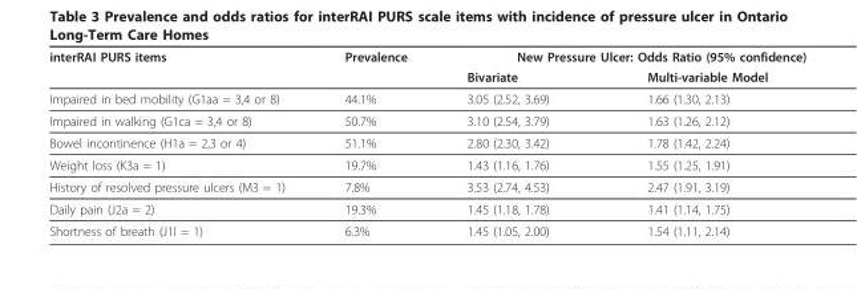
<table><thead><tr><td rowspan="2">interRAI PURS items</td><td rowspan="2">Prevalence</td><td colspan="2">New Pressure Ulcer: Odds Ratio (95% confidence)</td></tr><tr><td>Bivariate</td><td>Multi-variable Model</td></tr></thead><tbody><tr><td>Impaired in bed mobility (G1aa = 3,4 or 8)</td><td>44.1%</td><td>3.05 (2.52, 3.69)</td><td>1.66 (1.30, 2.13)</td></tr><tr><td>Impaired in walking (G1ca = 3,4 or 8)</td><td>50.7%</td><td>3.10 (2.54, 3.79)</td><td>1.63 (1.26, 2.12)</td></tr><tr><td>Bowel incontinence (H1a = 2,3 or 4)</td><td>51.1%</td><td>2.80 (2.30, 3.42)</td><td>1.78 (1.42, 2.24)</td></tr><tr><td>Weight loss (K3a = 1)</td><td>19.7%</td><td>1.43 (1.16, 1.76)</td><td>1.55 (1.25, 1.91)</td></tr><tr><td>History of resolved pressure ulcers (M3 = 1)</td><td>7.8%</td><td>3.53 (2.74, 4.53)</td><td>2.47 (1.91, 3.19)</td></tr><tr><td>Daily pain (J2a = 2)</td><td>19.3%</td><td>1.45 (1.18, 1.78)</td><td>1.41 (1.14, 1.75)</td></tr><tr><td>Shortness of breath (J1l = 1)</td><td>6.3%</td><td>1.45 (1.05, 2.00)</td><td>1.54 (1.11, 2.14)</td></tr></tbody></table>